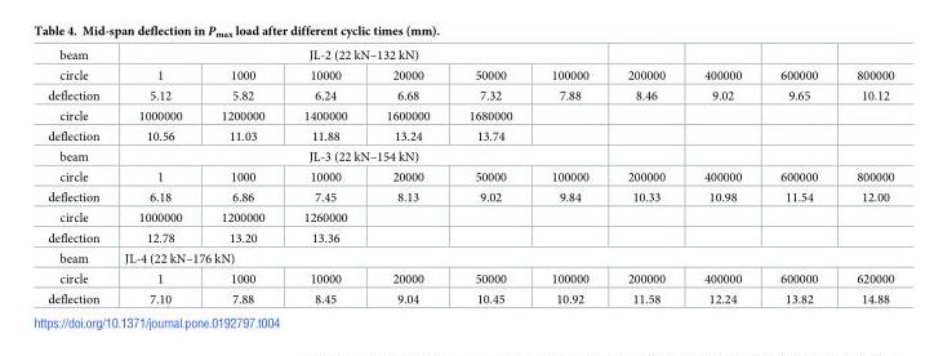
<table><tbody><tr><td>beam</td><td colspan="6">JL-2 (22 kN–132 kN)</td><td></td><td></td><td></td><td></td></tr><tr><td>circle</td><td>1</td><td>1000</td><td>10000</td><td>20000</td><td>50000</td><td>100000</td><td>200000</td><td>400000</td><td>600000</td><td>800000</td></tr><tr><td>deflection</td><td>5.12</td><td>5.82</td><td>6.24</td><td>6.68</td><td>7.32</td><td>7.88</td><td>8.46</td><td>9.02</td><td>9.65</td><td>10.12</td></tr><tr><td>circle</td><td>1000000</td><td>1200000</td><td>1400000</td><td>1600000</td><td>1680000</td><td></td><td></td><td></td><td></td><td></td></tr><tr><td>deflection</td><td>10.56</td><td>11.03</td><td>11.88</td><td>13.24</td><td>13.74</td><td></td><td></td><td></td><td></td><td></td></tr><tr><td>beam</td><td colspan="6">JL-3 (22 kN–154 kN)</td><td></td><td></td><td></td><td></td></tr><tr><td>circle</td><td>1</td><td>1000</td><td>10000</td><td>20000</td><td>50000</td><td>100000</td><td>200000</td><td>400000</td><td>600000</td><td>800000</td></tr><tr><td>deflection</td><td>6.18</td><td>6.86</td><td>7.45</td><td>8.13</td><td>9.02</td><td>9.84</td><td>10.33</td><td>10.98</td><td>11.54</td><td>12.00</td></tr><tr><td>circle</td><td>1000000</td><td>1200000</td><td>1260000</td><td></td><td></td><td></td><td></td><td></td><td></td><td></td></tr><tr><td>deflection</td><td>12.78</td><td>13.20</td><td>13.36</td><td></td><td></td><td></td><td></td><td></td><td></td><td></td></tr><tr><td>beam</td><td colspan="10">JL-4 (22 kN–176 kN)</td></tr><tr><td>circle</td><td>1</td><td>1000</td><td>10000</td><td>20000</td><td>50000</td><td>100000</td><td>200000</td><td>400000</td><td>600000</td><td>620000</td></tr><tr><td>deflection</td><td>7.10</td><td>7.88</td><td>8.45</td><td>9.04</td><td>10.45</td><td>10.92</td><td>11.58</td><td>12.24</td><td>13.82</td><td>14.88</td></tr></tbody></table>